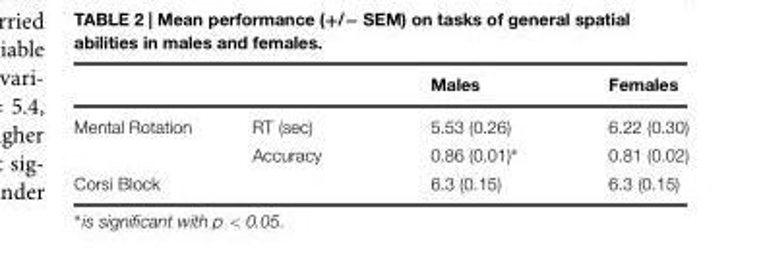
<table><thead><tr><td></td><td></td><td>Males</td><td>Females</td></tr></thead><tbody><tr><td rowspan="2">Mental Rotation</td><td>RT (sec)</td><td>5.53 (0.26)</td><td>6.22 (0.30)</td></tr><tr><td>Accuracy</td><td>0.86 (0.01)∗</td><td>0.81 (0.02)</td></tr><tr><td>Corsi Block</td><td></td><td>6.3 (0.15)</td><td>6.3 (0.15)</td></tr></tbody></table>